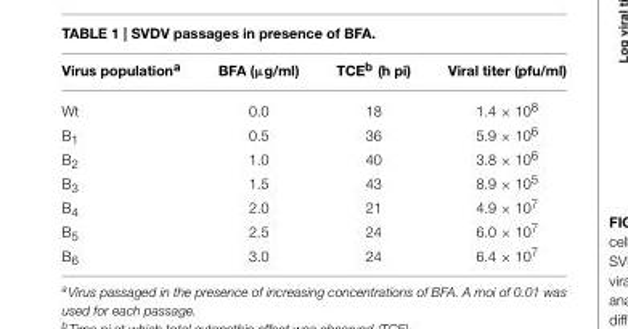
<table><thead><tr><td>Virus population<sup>a</sup></td><td>BFA (µg/ml)</td><td>TCE<sup>b</sup> (h pi)</td><td>Viral titer (pfu/ml)</td></tr></thead><tbody><tr><td>Wt</td><td>0.0</td><td>18</td><td>1.4 × 10<sup>8</sup></td></tr><tr><td>B<sub>1</sub></td><td>0.5</td><td>36</td><td>5.9 × 10<sup>6</sup></td></tr><tr><td>B<sub>2</sub></td><td>1.0</td><td>40</td><td>3.8 × 10<sup>6</sup></td></tr><tr><td>B<sub>3</sub></td><td>1.5</td><td>43</td><td>8.9 × 10<sup>5</sup></td></tr><tr><td>B<sub>4</sub></td><td>2.0</td><td>21</td><td>4.9 × 10<sup>7</sup></td></tr><tr><td>B<sub>5</sub></td><td>2.5</td><td>24</td><td>6.0 × 10<sup>7</sup></td></tr><tr><td>B<sub>6</sub></td><td>3.0</td><td>24</td><td>6.4 × 10<sup>7</sup></td></tr></tbody></table>